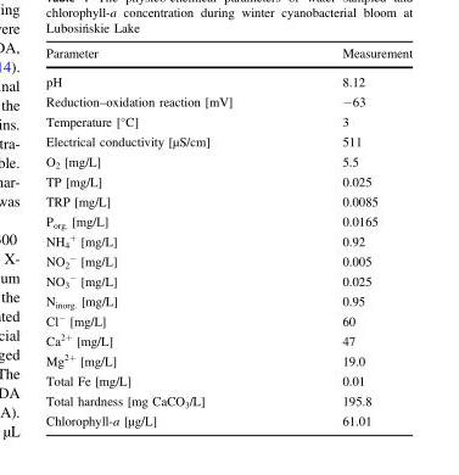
<table><thead><tr><td>Parameter</td><td>Measurement</td></tr></thead><tbody><tr><td>pH</td><td>8.12</td></tr><tr><td>Reduction–oxidation reaction [mV]</td><td>−63</td></tr><tr><td>Temperature [°C]</td><td>3</td></tr><tr><td>Electrical conductivity [µS/cm]</td><td>511</td></tr><tr><td>O<sub>2</sub> [mg/L]</td><td>5.5</td></tr><tr><td>TP [mg/L]</td><td>0.025</td></tr><tr><td>TRP [mg/L]</td><td>0.0085</td></tr><tr><td>P<sub>org.</sub> [mg/L]</td><td>0.0165</td></tr><tr><td>NH<sub>4</sub> <sup>+</sup> [mg/L]</td><td>0.92</td></tr><tr><td>NO<sub>2</sub> <sup>−</sup> [mg/L]</td><td>0.005</td></tr><tr><td>NO<sub>3</sub> <sup>−</sup> [mg/L]</td><td>0.025</td></tr><tr><td>N<sub>inorg.</sub> [mg/L]</td><td>0.95</td></tr><tr><td>Cl<sup>−</sup> [mg/L]</td><td>60</td></tr><tr><td>Ca<sup>2+</sup> [mg/L]</td><td>47</td></tr><tr><td>Mg<sup>2+</sup> [mg/L]</td><td>19.0</td></tr><tr><td>Total Fe [mg/L]</td><td>0.01</td></tr><tr><td>Total hardness [mg CaCO<sub>3</sub>/L]</td><td>195.8</td></tr><tr><td>Chlorophyll-a [µg/L]</td><td>61.01</td></tr></tbody></table>